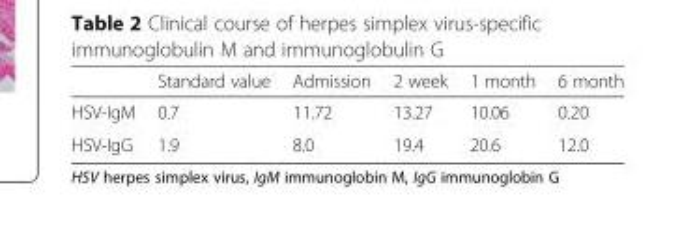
<table><thead><tr><td></td><td>Standard value</td><td>Admission</td><td>2 week</td><td>1 month</td><td>6 month</td></tr></thead><tbody><tr><td>HSV-IgM</td><td>0.7</td><td>11.72</td><td>13.27</td><td>10.06</td><td>0.20</td></tr><tr><td>HSV-IgG</td><td>1.9</td><td>8.0</td><td>19.4</td><td>20.6</td><td>12.0</td></tr></tbody></table>